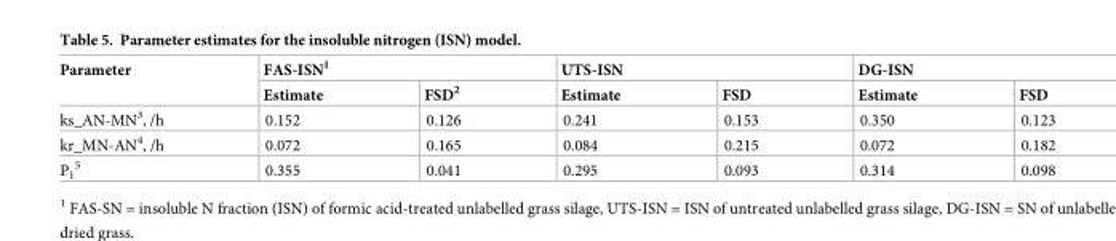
<table><thead><tr><td rowspan="2">Parameter</td><td colspan="2">FAS-ISN<sup>1</sup></td><td colspan="2">UTS-ISN</td><td colspan="2">DG-ISN</td></tr><tr><td>Estimate</td><td>FSD<sup>2</sup></td><td>Estimate</td><td>FSD</td><td>Estimate</td><td>FSD</td></tr></thead><tbody><tr><td>ks_AN-MN<sup>3</sup>, /h</td><td>0.152</td><td>0.126</td><td>0.241</td><td>0.153</td><td>0.350</td><td>0.123</td></tr><tr><td>kr_MN-AN<sup>4</sup>, /h</td><td>0.072</td><td>0.165</td><td>0.084</td><td>0.215</td><td>0.072</td><td>0.182</td></tr><tr><td>P<sub>1</sub> <sup>5</sup></td><td>0.355</td><td>0.041</td><td>0.295</td><td>0.093</td><td>0.314</td><td>0.098</td></tr></tbody></table>